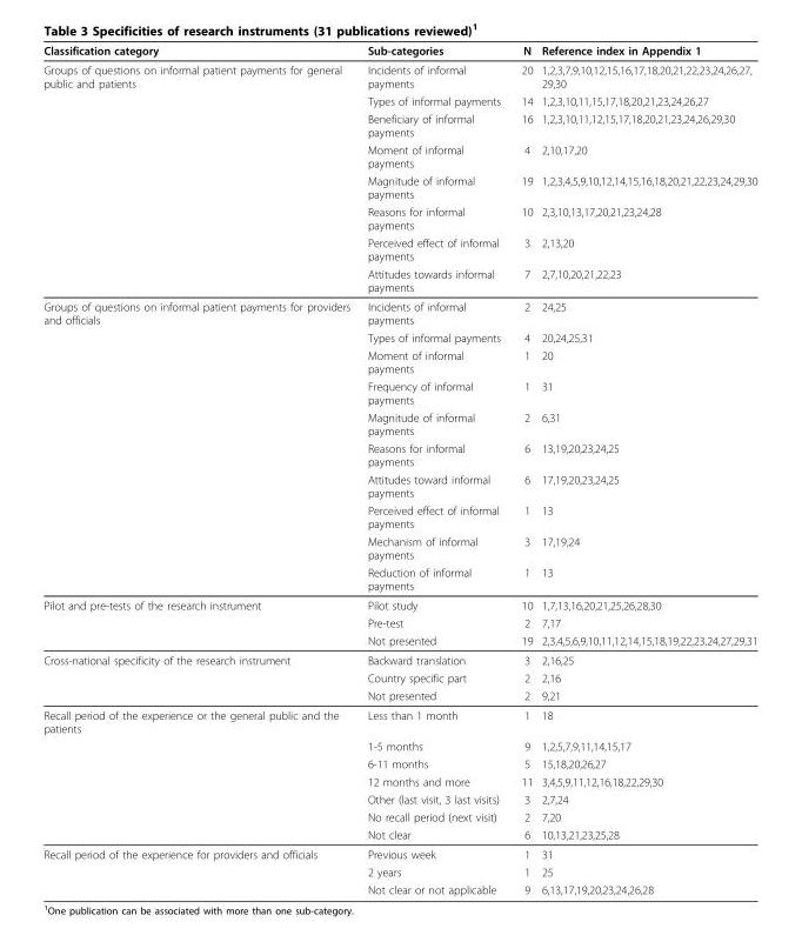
<table><thead><tr><td>Classification category</td><td>Sub-categories</td><td>N</td><td>Reference index in Appendix 1</td></tr></thead><tbody><tr><td rowspan="8">Groups of questions on informal patient payments for general public and patients</td><td>Incidents of informal payments</td><td>20</td><td>1,2,3,7,9,10,12,15,16,17,18,20,21,22,23,24,26,27, 29,30</td></tr><tr><td>Types of informal payments</td><td>14</td><td>1,2,3,10,11,15,17,18,20,21,23,24,26,27</td></tr><tr><td>Beneficiary of informal payments</td><td>16</td><td>1,2,3,10,11,12,15,17,18,20,21,23,24,26,29,30</td></tr><tr><td>Moment of informal payments</td><td>4</td><td>2,10,17,20</td></tr><tr><td>Magnitude of informal payments</td><td>19</td><td>1,2,3,4,5,9,10,12,14,15,16,18,20,21,22,23,24,29,30</td></tr><tr><td>Reasons for informal payments</td><td>10</td><td>2,3,10,13,17,20,21,23,24,28</td></tr><tr><td>Perceived effect of informal payments</td><td>3</td><td>2,13,20</td></tr><tr><td>Attitudes towards informal payments</td><td>7</td><td>2,7,10,20,21,22,23</td></tr><tr><td rowspan="10">Groups of questions on informal patient payments for providers and officials</td><td>Incidents of informal payments</td><td>2</td><td>24,25</td></tr><tr><td>Types of informal payments</td><td>4</td><td>20,24,25,31</td></tr><tr><td>Moment of informal payments</td><td>1</td><td>20</td></tr><tr><td>Frequency of informal payments</td><td>1</td><td>31</td></tr><tr><td>Magnitude of informal payments</td><td>2</td><td>6,31</td></tr><tr><td>Reasons for informal payments</td><td>6</td><td>13,19,20,23,24,25</td></tr><tr><td>Attitudes toward informal payments</td><td>6</td><td>17,19,20,23,24,25</td></tr><tr><td>Perceived effect of informal payments</td><td>1</td><td>13</td></tr><tr><td>Mechanism of informal payments</td><td>3</td><td>17,19,24</td></tr><tr><td>Reduction of informal payments</td><td>1</td><td>13</td></tr><tr><td rowspan="3">Pilot and pre-tests of the research instrument</td><td>Pilot study</td><td>10</td><td>1,7,13,16,20,21,25,26,28,30</td></tr><tr><td>Pre-test</td><td>2</td><td>7,17</td></tr><tr><td>Not presented</td><td>19</td><td>2,3,4,5,6,9,10,11,12,14,15,18,19,22,23,24,27,29,31</td></tr><tr><td rowspan="3">Cross-national specificity of the research instrument</td><td>Backward translation</td><td>3</td><td>2,16,25</td></tr><tr><td>Country specific part</td><td>2</td><td>2,16</td></tr><tr><td>Not presented</td><td>2</td><td>9,21</td></tr><tr><td rowspan="7">Recall period of the experience or the general public and the patients</td><td>Less than 1 month</td><td>1</td><td>18</td></tr><tr><td>1-5 months</td><td>9</td><td>1,2,5,7,9,11,14,15,17</td></tr><tr><td>6-11 months</td><td>5</td><td>15,18,20,26,27</td></tr><tr><td>12 months and more</td><td>11</td><td>3,4,5,9,11,12,16,18,22,29,30</td></tr><tr><td>Other (last visit, 3 last visits)</td><td>3</td><td>2,7,24</td></tr><tr><td>No recall period (next visit)</td><td>2</td><td>7,20</td></tr><tr><td>Not clear</td><td>6</td><td>10,13,21,23,25,28</td></tr><tr><td rowspan="3">Recall period of the experience for providers and officials</td><td>Previous week</td><td>1</td><td>31</td></tr><tr><td>2 years</td><td>1</td><td>25</td></tr><tr><td>Not clear or not applicable</td><td>9</td><td>6,13,17,19,20,23,24,26,28</td></tr></tbody></table>